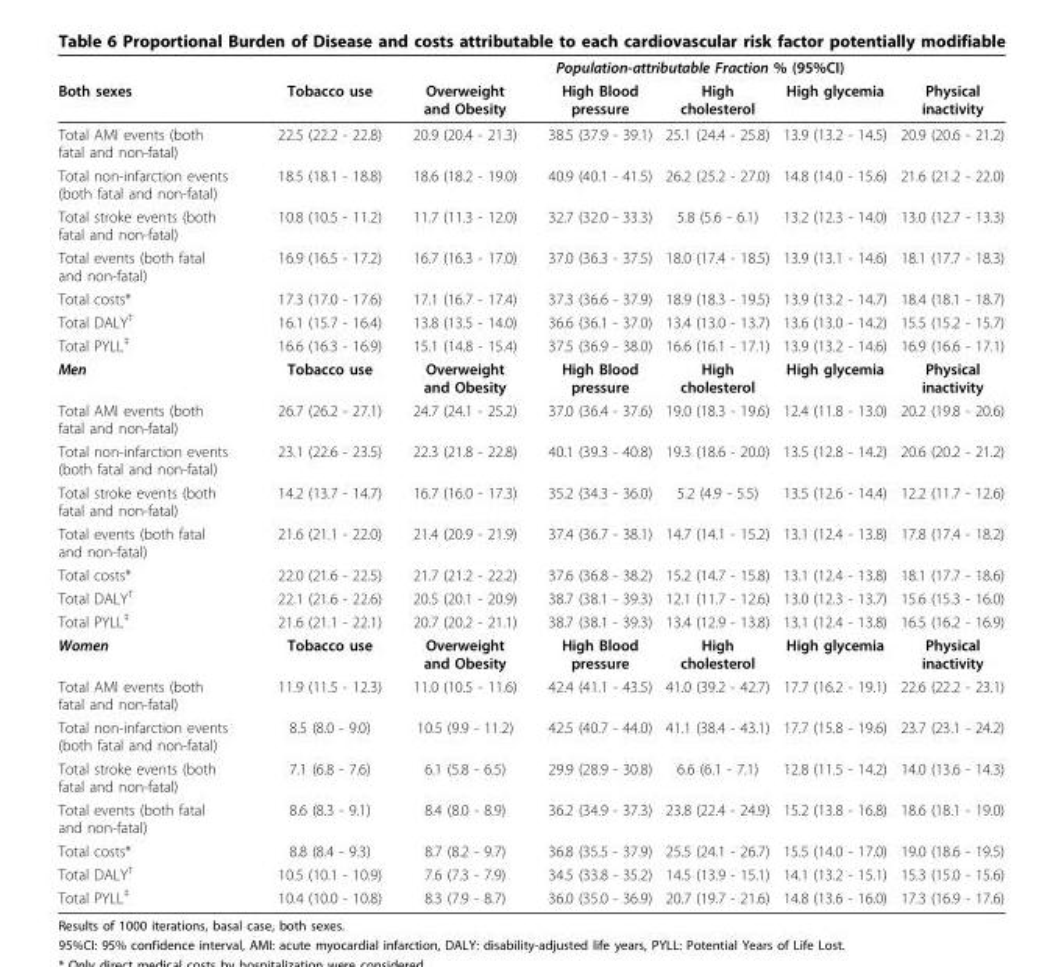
<table><thead><tr><td rowspan="2">Both sexes</td><td rowspan="2">Tobacco use</td><td colspan="5">Population-attributable Fraction % (95%CI)</td></tr><tr><td>Overweight and Obesity</td><td>High Blood pressure</td><td>High cholesterol</td><td>High glycemia</td><td>Physical inactivity</td></tr></thead><tbody><tr><td>Total AMI events (both fatal and non-fatal)</td><td>22.5 (22.2 - 22.8)</td><td>20.9 (20.4 - 21.3)</td><td>38.5 (37.9 - 39.1)</td><td>25.1 (24.4 - 25.8)</td><td>13.9 (13.2 - 14.5)</td><td>20.9 (20.6 - 21.2)</td></tr><tr><td>Total non-infarction events (both fatal and non-fatal)</td><td>18.5 (18.1 - 18.8)</td><td>18.6 (18.2 - 19.0)</td><td>40.9 (40.1 - 41.5)</td><td>26.2 (25.2 - 27.0)</td><td>14.8 (14.0 - 15.6)</td><td>21.6 (21.2 - 22.0)</td></tr><tr><td>Total stroke events (both fatal and non-fatal)</td><td>10.8 (10.5 - 11.2)</td><td>11.7 (11.3 - 12.0)</td><td>32.7 (32.0 - 33.3)</td><td>5.8 (5.6 - 6.1)</td><td>13.2 (12.3 - 14.0)</td><td>13.0 (12.7 - 13.3)</td></tr><tr><td>Total events (both fatal and non-fatal)</td><td>16.9 (16.5 - 17.2)</td><td>16.7 (16.3 - 17.0)</td><td>37.0 (36.3 - 37.5)</td><td>18.0 (17.4 - 18.5)</td><td>13.9 (13.1 - 14.6)</td><td>18.1 (17.7 - 18.3)</td></tr><tr><td>Total costs*</td><td>17.3 (17.0 - 17.6)</td><td>17.1 (16.7 - 17.4)</td><td>37.3 (36.6 - 37.9)</td><td>18.9 (18.3 - 19.5)</td><td>13.9 (13.2 - 14.7)</td><td>18.4 (18.1 - 18.7)</td></tr><tr><td>Total DALY<sup>†</sup></td><td>16.1 (15.7 - 16.4)</td><td>13.8 (13.5 - 14.0)</td><td>36.6 (36.1 - 37.0)</td><td>13.4 (13.0 - 13.7)</td><td>13.6 (13.0 - 14.2)</td><td>15.5 (15.2 - 15.7)</td></tr><tr><td>Total PYLL<sup>‡</sup></td><td>16.6 (16.3 - 16.9)</td><td>15.1 (14.8 - 15.4)</td><td>37.5 (36.9 - 38.0)</td><td>16.6 (16.1 - 17.1)</td><td>13.9 (13.2 - 14.6)</td><td>16.9 (16.6 - 17.1)</td></tr><tr><td>Men</td><td>Tobacco use</td><td>Overweight and Obesity</td><td>High Blood pressure</td><td>High cholesterol</td><td>High glycemia</td><td>Physical inactivity</td></tr><tr><td>Total AMI events (both fatal and non-fatal)</td><td>26.7 (26.2 - 27.1)</td><td>24.7 (24.1 - 25.2)</td><td>37.0 (36.4 - 37.6)</td><td>19.0 (18.3 - 19.6)</td><td>12.4 (11.8 - 13.0)</td><td>20.2 (19.8 - 20.6)</td></tr><tr><td>Total non-infarction events (both fatal and non-fatal)</td><td>23.1 (22.6 - 23.5)</td><td>22.3 (21.8 - 22.8)</td><td>40.1 (39.3 - 40.8)</td><td>19.3 (18.6 - 20.0)</td><td>13.5 (12.8 - 14.2)</td><td>20.6 (20.2 - 21.2)</td></tr><tr><td>Total stroke events (both fatal and non-fatal)</td><td>14.2 (13.7 - 14.7)</td><td>16.7 (16.0 - 17.3)</td><td>35.2 (34.3 - 36.0)</td><td>5.2 (4.9 - 5.5)</td><td>13.5 (12.6 - 14.4)</td><td>12.2 (11.7 - 12.6)</td></tr><tr><td>Total events (both fatal and non-fatal)</td><td>21.6 (21.1 - 22.0)</td><td>21.4 (20.9 - 21.9)</td><td>37.4 (36.7 - 38.1)</td><td>14.7 (14.1 - 15.2)</td><td>13.1 (12.4 - 13.8)</td><td>17.8 (17.4 - 18.2)</td></tr><tr><td>Total costs*</td><td>22.0 (21.6 - 22.5)</td><td>21.7 (21.2 - 22.2)</td><td>37.6 (36.8 - 38.2)</td><td>15.2 (14.7 - 15.8)</td><td>13.1 (12.4 - 13.8)</td><td>18.1 (17.7 - 18.6)</td></tr><tr><td>Total DALY<sup>†</sup></td><td>22.1 (21.6 - 22.6)</td><td>20.5 (20.1 - 20.9)</td><td>38.7 (38.1 - 39.3)</td><td>12.1 (11.7 - 12.6)</td><td>13.0 (12.3 - 13.7)</td><td>15.6 (15.3 - 16.0)</td></tr><tr><td>Total PYLL<sup>‡</sup></td><td>21.6 (21.1 - 22.1)</td><td>20.7 (20.2 - 21.1)</td><td>38.7 (38.1 - 39.3)</td><td>13.4 (12.9 - 13.8)</td><td>13.1 (12.4 - 13.8)</td><td>16.5 (16.2 - 16.9)</td></tr><tr><td>Women</td><td>Tobacco use</td><td>Overweight and Obesity</td><td>High Blood pressure</td><td>High cholesterol</td><td>High glycemia</td><td>Physical inactivity</td></tr><tr><td>Total AMI events (both fatal and non-fatal)</td><td>11.9 (11.5 - 12.3)</td><td>11.0 (10.5 - 11.6)</td><td>42.4 (41.1 - 43.5)</td><td>41.0 (39.2 - 42.7)</td><td>17.7 (16.2 - 19.1)</td><td>22.6 (22.2 - 23.1)</td></tr><tr><td>Total non-infarction events (both fatal and non-fatal)</td><td>8.5 (8.0 - 9.0)</td><td>10.5 (9.9 - 11.2)</td><td>42.5 (40.7 - 44.0)</td><td>41.1 (38.4 - 43.1)</td><td>17.7 (15.8 - 19.6)</td><td>23.7 (23.1 - 24.2)</td></tr><tr><td>Total stroke events (both fatal and non-fatal)</td><td>7.1 (6.8 - 7.6)</td><td>6.1 (5.8 - 6.5)</td><td>29.9 (28.9 - 30.8)</td><td>6.6 (6.1 - 7.1)</td><td>12.8 (11.5 - 14.2)</td><td>14.0 (13.6 - 14.3)</td></tr><tr><td>Total events (both fatal and non-fatal)</td><td>8.6 (8.3 - 9.1)</td><td>8.4 (8.0 - 8.9)</td><td>36.2 (34.9 - 37.3)</td><td>23.8 (22.4 - 24.9)</td><td>15.2 (13.8 - 16.8)</td><td>18.6 (18.1 - 19.0)</td></tr><tr><td>Total costs*</td><td>8.8 (8.4 - 9.3)</td><td>8.7 (8.2 - 9.7)</td><td>36.8 (35.5 - 37.9)</td><td>25.5 (24.1 - 26.7)</td><td>15.5 (14.0 - 17.0)</td><td>19.0 (18.6 - 19.5)</td></tr><tr><td>Total DALY<sup>†</sup></td><td>10.5 (10.1 - 10.9)</td><td>7.6 (7.3 - 7.9)</td><td>34.5 (33.8 - 35.2)</td><td>14.5 (13.9 - 15.1)</td><td>14.1 (13.2 - 15.1)</td><td>15.3 (15.0 - 15.6)</td></tr><tr><td>Total PYLL<sup>‡</sup></td><td>10.4 (10.0 - 10.8)</td><td>8.3 (7.9 - 8.7)</td><td>36.0 (35.0 - 36.9)</td><td>20.7 (19.7 - 21.6)</td><td>14.8 (13.6 - 16.0)</td><td>17.3 (16.9 - 17.6)</td></tr></tbody></table>